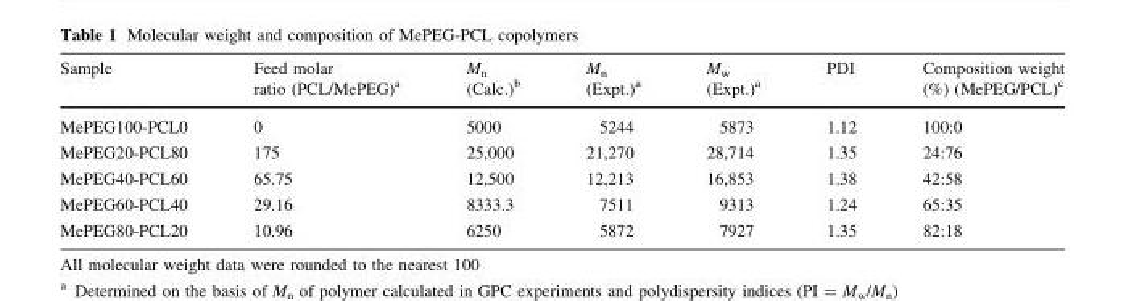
<table><thead><tr><td>Sample</td><td>Feed molar ratio (PCL/MePEG)<sup>a</sup></td><td>M<sub>n</sub> (Calc.)<sup>b</sup></td><td>M<sub>n</sub> (Expt.)<sup>a</sup></td><td>M<sub>w</sub> (Expt.)<sup>a</sup></td><td>PDI</td><td>Composition weight (%) (MePEG/PCL)<sup>c</sup></td></tr></thead><tbody><tr><td>MePEG100-PCL0</td><td>0</td><td>5000</td><td>5244</td><td>5873</td><td>1.12</td><td>100:0</td></tr><tr><td>MePEG20-PCL80</td><td>175</td><td>25,000</td><td>21,270</td><td>28,714</td><td>1.35</td><td>24:76</td></tr><tr><td>MePEG40-PCL60</td><td>65.75</td><td>12,500</td><td>12,213</td><td>16,853</td><td>1.38</td><td>42:58</td></tr><tr><td>MePEG60-PCL40</td><td>29.16</td><td>8333.3</td><td>7511</td><td>9313</td><td>1.24</td><td>65:35</td></tr><tr><td>MePEG80-PCL20</td><td>10.96</td><td>6250</td><td>5872</td><td>7927</td><td>1.35</td><td>82:18</td></tr></tbody></table>